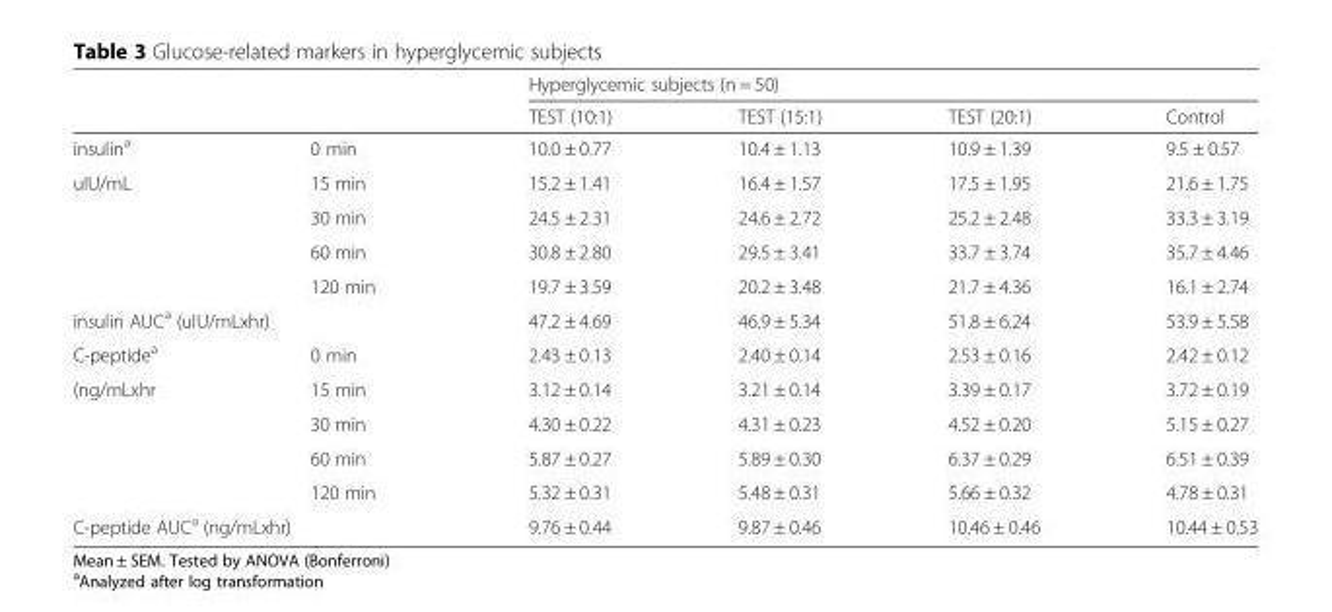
<table><thead><tr><td rowspan="2"></td><td rowspan="2"></td><td colspan="4">Hyperglycemic subjects (n = 50)</td></tr><tr><td>TEST (10:1)</td><td>TEST (15:1)</td><td>TEST (20:1)</td><td>Control</td></tr></thead><tbody><tr><td>insulin<sup>a</sup></td><td>0 min</td><td>10.0 ± 0.77</td><td>10.4 ± 1.13</td><td>10.9 ± 1.39</td><td>9.5 ± 0.57</td></tr><tr><td rowspan="4">uIU/mL</td><td>15 min</td><td>15.2 ± 1.41</td><td>16.4 ± 1.57</td><td>17.5 ± 1.95</td><td>21.6 ± 1.75</td></tr><tr><td>30 min</td><td>24.5 ± 2.31</td><td>24.6 ± 2.72</td><td>25.2 ± 2.48</td><td>33.3 ± 3.19</td></tr><tr><td>60 min</td><td>30.8 ± 2.80</td><td>29.5 ± 3.41</td><td>33.7 ± 3.74</td><td>35.7 ± 4.46</td></tr><tr><td>120 min</td><td>19.7 ± 3.59</td><td>20.2 ± 3.48</td><td>21.7 ± 4.36</td><td>16.1 ± 2.74</td></tr><tr><td colspan="2">insulin AUC<sup>a</sup> (uIU/mLxhr)</td><td>47.2 ± 4.69</td><td>46.9 ± 5.34</td><td>51.8 ± 6.24</td><td>53.9 ± 5.58</td></tr><tr><td>C-peptide<sup>a</sup></td><td>0 min</td><td>2.43 ± 0.13</td><td>2.40 ± 0.14</td><td>2.53 ± 0.16</td><td>2.42 ± 0.12</td></tr><tr><td rowspan="4">(ng/mLxhr</td><td>15 min</td><td>3.12 ± 0.14</td><td>3.21 ± 0.14</td><td>3.39 ± 0.17</td><td>3.72 ± 0.19</td></tr><tr><td>30 min</td><td>4.30 ± 0.22</td><td>4.31 ± 0.23</td><td>4.52 ± 0.20</td><td>5.15 ± 0.27</td></tr><tr><td>60 min</td><td>5.87 ± 0.27</td><td>5.89 ± 0.30</td><td>6.37 ± 0.29</td><td>6.51 ± 0.39</td></tr><tr><td>120 min</td><td>5.32 ± 0.31</td><td>5.48 ± 0.31</td><td>5.66 ± 0.32</td><td>4.78 ± 0.31</td></tr><tr><td colspan="2">C-peptide AUC<sup>a</sup> (ng/mLxhr)</td><td>9.76 ± 0.44</td><td>9.87 ± 0.46</td><td>10.46 ± 0.46</td><td>10.44 ± 0.53</td></tr></tbody></table>